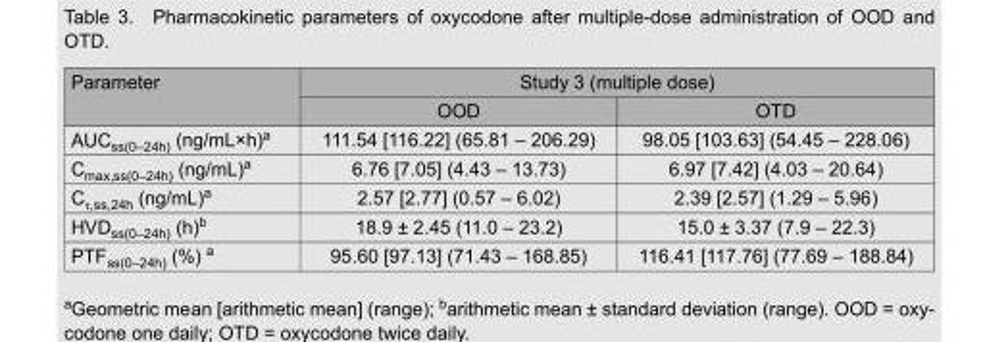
<table><thead><tr><td rowspan="2">Parameter</td><td colspan="2">Study 3 (multiple dose)</td></tr><tr><td>OOD</td><td>OTD</td></tr></thead><tbody><tr><td>AUC<sub>ss(0–24h)</sub> (ng/mL×h)<sup>a</sup></td><td>111.54 [116.22] (65.81 – 206.29)</td><td>98.05 [103.63] (54.45 – 228.06)</td></tr><tr><td>C<sub>max,ss(0–24h)</sub> (ng/mL)<sup>a</sup></td><td>6.76 [7.05] (4.43 – 13.73)</td><td>6.97 [7.42] (4.03 – 20.64)</td></tr><tr><td>C<sub>τ,ss,24h</sub> (ng/mL)<sup>a</sup></td><td>2.57 [2.77] (0.57 – 6.02)</td><td>2.39 [2.57] (1.29 – 5.96)</td></tr><tr><td>HVD<sub>ss(0–24h)</sub> (h)<sup>b</sup></td><td>18.9 ± 2.45 (11.0 – 23.2)</td><td>15.0 ± 3.37 (7.9 – 22.3)</td></tr><tr><td>PTF<sub>ss(0–24h)</sub> (%) <sup>a</sup></td><td>95.60 [97.13] (71.43 – 168.85)</td><td>116.41 [117.76] (77.69 – 188.84)</td></tr></tbody></table>